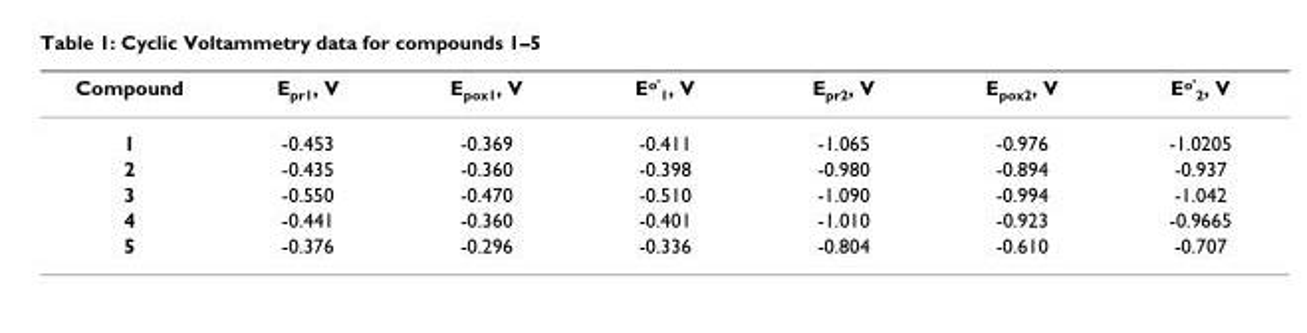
<table><thead><tr><td>Compound</td><td>E<sub>pr1</sub>, V</td><td>E<sub>pox1</sub>, V</td><td>E<sup>o&#x27;</sup><sub>1</sub>, V</td><td>E<sub>pr2</sub>, V</td><td>E<sub>pox2</sub>, V</td><td>E<sup>o&#x27;</sup><sub>2</sub>, V</td></tr></thead><tbody><tr><td>1</td><td>-0.453</td><td>-0.369</td><td>-0.411</td><td>-1.065</td><td>-0.976</td><td>-1.0205</td></tr><tr><td>2</td><td>-0.435</td><td>-0.360</td><td>-0.398</td><td>-0.980</td><td>-0.894</td><td>-0.937</td></tr><tr><td>3</td><td>-0.550</td><td>-0.470</td><td>-0.510</td><td>-1.090</td><td>-0.994</td><td>-1.042</td></tr><tr><td>4</td><td>-0.441</td><td>-0.360</td><td>-0.401</td><td>-1.010</td><td>-0.923</td><td>-0.9665</td></tr><tr><td>5</td><td>-0.376</td><td>-0.296</td><td>-0.336</td><td>-0.804</td><td>-0.610</td><td>-0.707</td></tr></tbody></table>